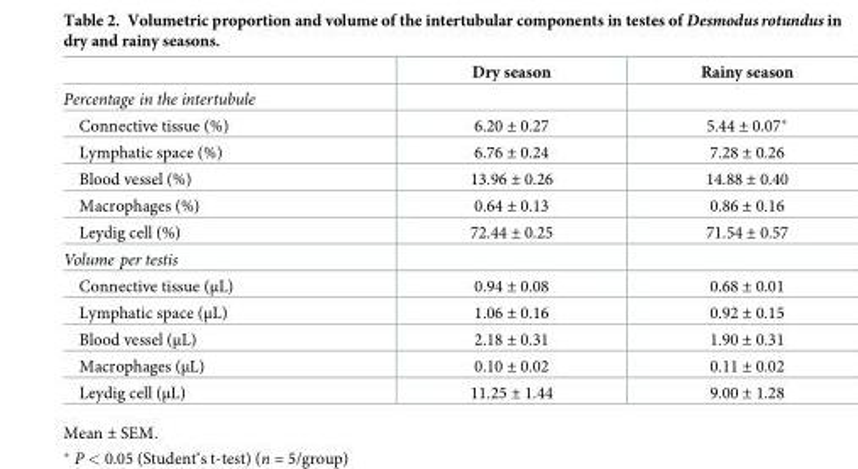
<table><thead><tr><td></td><td>Dry season</td><td>Rainy season</td></tr></thead><tbody><tr><td colspan="3">Percentage in the intertubule</td></tr><tr><td>Connective tissue (%)</td><td>6.20 ± 0.27</td><td>5.44 ± 0.07*</td></tr><tr><td>Lymphatic space (%)</td><td>6.76 ± 0.24</td><td>7.28 ± 0.26</td></tr><tr><td>Blood vessel (%)</td><td>13.96 ± 0.26</td><td>14.88 ± 0.40</td></tr><tr><td>Macrophages (%)</td><td>0.64 ± 0.13</td><td>0.86 ± 0.16</td></tr><tr><td>Leydig cell (%)</td><td>72.44 ± 0.25</td><td>71.54 ± 0.57</td></tr><tr><td colspan="3">Volume per testis</td></tr><tr><td>Connective tissue (μL)</td><td>0.94 ± 0.08</td><td>0.68 ± 0.01</td></tr><tr><td>Lymphatic space (μL)</td><td>1.06 ± 0.16</td><td>0.92 ± 0.15</td></tr><tr><td>Blood vessel (μL)</td><td>2.18 ± 0.31</td><td>1.90 ± 0.31</td></tr><tr><td>Macrophages (μL)</td><td>0.10 ± 0.02</td><td>0.11 ± 0.02</td></tr><tr><td>Leydig cell (μL)</td><td>11.25 ± 1.44</td><td>9.00 ± 1.28</td></tr></tbody></table>